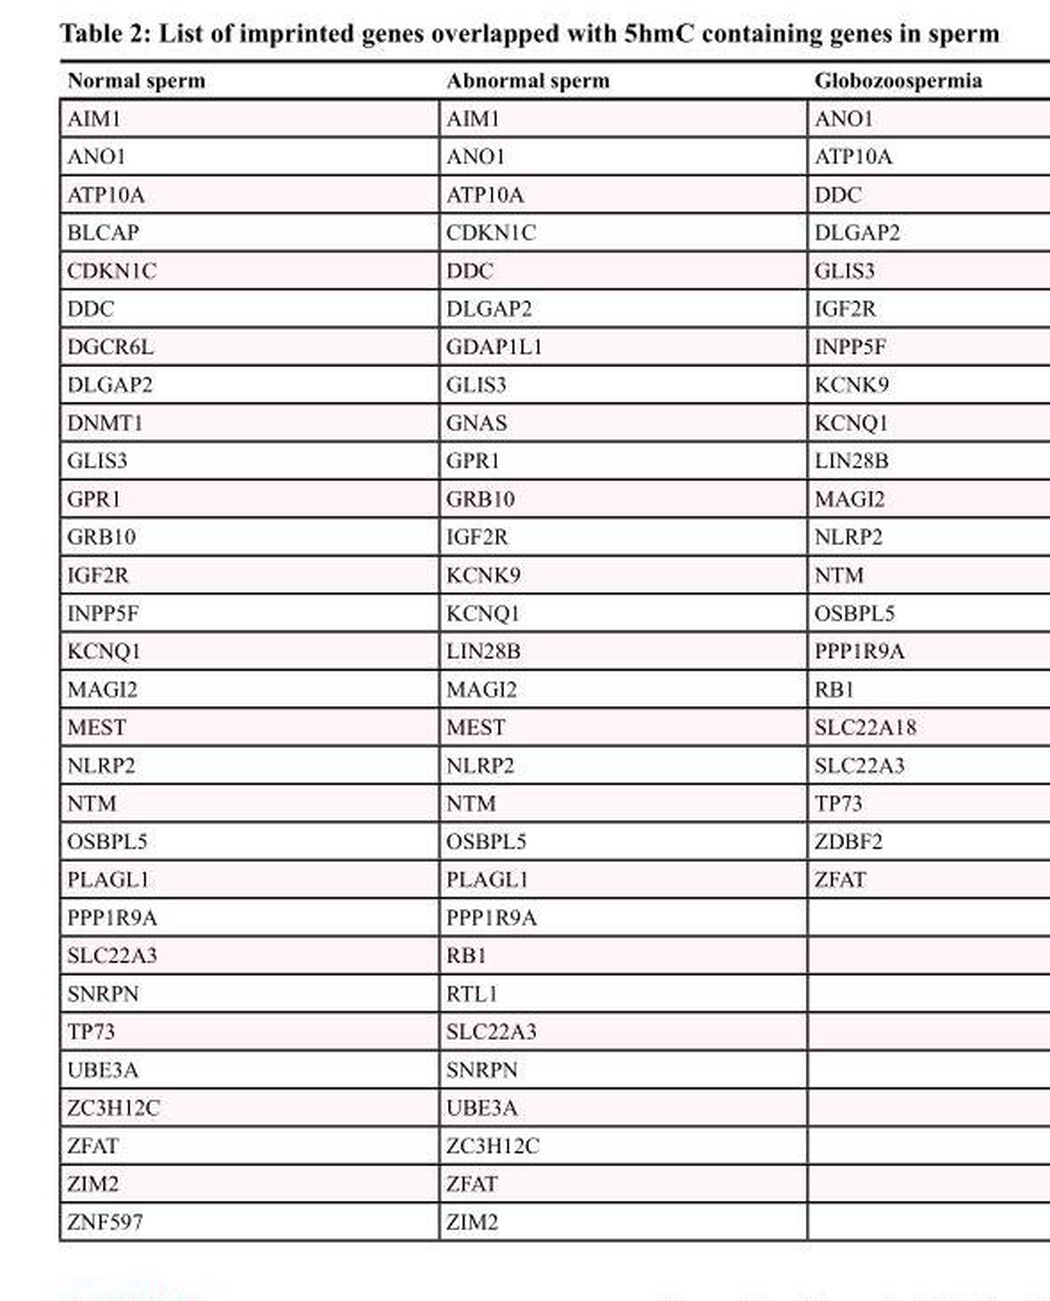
<table><thead><tr><td>Normal sperm</td><td>Abnormal sperm</td><td>Globozoospermia</td></tr></thead><tbody><tr><td>AIM1</td><td>AIM1</td><td>ANO1</td></tr><tr><td>ANO1</td><td>ANO1</td><td>ATP10A</td></tr><tr><td>ATP10A</td><td>ATP10A</td><td>DDC</td></tr><tr><td>BLCAP</td><td>CDKN1C</td><td>DLGAP2</td></tr><tr><td>CDKN1C</td><td>DDC</td><td>GLIS3</td></tr><tr><td>DDC</td><td>DLGAP2</td><td>IGF2R</td></tr><tr><td>DGCR6L</td><td>GDAP1L1</td><td>INPP5F</td></tr><tr><td>DLGAP2</td><td>GLIS3</td><td>KCNK9</td></tr><tr><td>DNMT1</td><td>GNAS</td><td>KCNQ1</td></tr><tr><td>GLIS3</td><td>GPR1</td><td>LIN28B</td></tr><tr><td>GPR1</td><td>GRB10</td><td>MAGI2</td></tr><tr><td>GRB10</td><td>IGF2R</td><td>NLRP2</td></tr><tr><td>IGF2R</td><td>KCNK9</td><td>NTM</td></tr><tr><td>INPP5F</td><td>KCNQ1</td><td>OSBPL5</td></tr><tr><td>KCNQ1</td><td>LIN28B</td><td>PPP1R9A</td></tr><tr><td>MAGI2</td><td>MAGI2</td><td>RB1</td></tr><tr><td>MEST</td><td>MEST</td><td>SLC22A18</td></tr><tr><td>NLRP2</td><td>NLRP2</td><td>SLC22A3</td></tr><tr><td>NTM</td><td>NTM</td><td>TP73</td></tr><tr><td>OSBPL5</td><td>OSBPL5</td><td>ZDBF2</td></tr><tr><td>PLAGL1</td><td>PLAGL1</td><td>ZFAT</td></tr><tr><td>PPP1R9A</td><td>PPP1R9A</td><td></td></tr><tr><td>SLC22A3</td><td>RB1</td><td></td></tr><tr><td>SNRPN</td><td>RTL1</td><td></td></tr><tr><td>TP73</td><td>SLC22A3</td><td></td></tr><tr><td>UBE3A</td><td>SNRPN</td><td></td></tr><tr><td>ZC3H12C</td><td>UBE3A</td><td></td></tr><tr><td>ZFAT</td><td>ZC3H12C</td><td></td></tr><tr><td>ZIM2</td><td>ZFAT</td><td></td></tr><tr><td>ZNF597</td><td>ZIM2</td><td></td></tr></tbody></table>